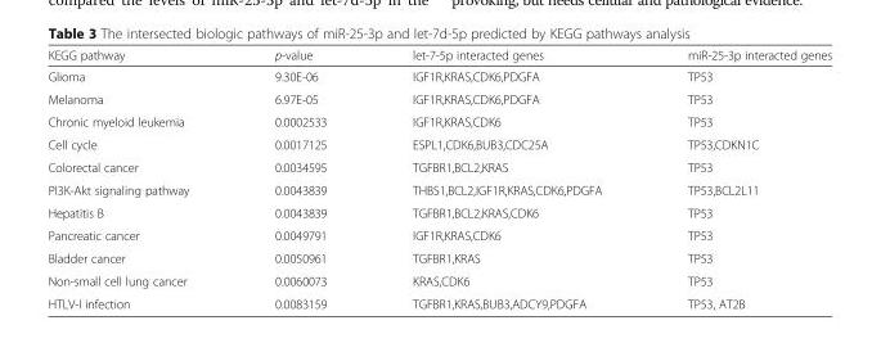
<table><thead><tr><td>KEGG pathway</td><td>p-value</td><td>let-7-5p interacted genes</td><td>miR-25-3p interacted genes</td></tr></thead><tbody><tr><td>Glioma</td><td>9.30E-06</td><td>IGF1R,KRAS,CDK6,PDGFA</td><td>TP53</td></tr><tr><td>Melanoma</td><td>6.97E-05</td><td>IGF1R,KRAS,CDK6,PDGFA</td><td>TP53</td></tr><tr><td>Chronic myeloid leukemia</td><td>0.0002533</td><td>IGF1R,KRAS,CDK6</td><td>TP53</td></tr><tr><td>Cell cycle</td><td>0.0017125</td><td>ESPL1,CDK6,BUB3,CDC25A</td><td>TP53,CDKN1C</td></tr><tr><td>Colorectal cancer</td><td>0.0034595</td><td>TGFBR1,BCL2,KRAS</td><td>TP53</td></tr><tr><td>PI3K-Akt signaling pathway</td><td>0.0043839</td><td>THBS1,BCL2,IGF1R,KRAS,CDK6,PDGFA</td><td>TP53,BCL2L11</td></tr><tr><td>Hepatitis B</td><td>0.0043839</td><td>TGFBR1,BCL2,KRAS,CDK6</td><td>TP53</td></tr><tr><td>Pancreatic cancer</td><td>0.0049791</td><td>IGF1R,KRAS,CDK6</td><td>TP53</td></tr><tr><td>Bladder cancer</td><td>0.0050961</td><td>TGFBR1,KRAS</td><td>TP53</td></tr><tr><td>Non-small cell lung cancer</td><td>0.0060073</td><td>KRAS,CDK6</td><td>TP53</td></tr><tr><td>HTLV-I infection</td><td>0.0083159</td><td>TGFBR1,KRAS,BUB3,ADCY9,PDGFA</td><td>TP53, AT2B</td></tr></tbody></table>